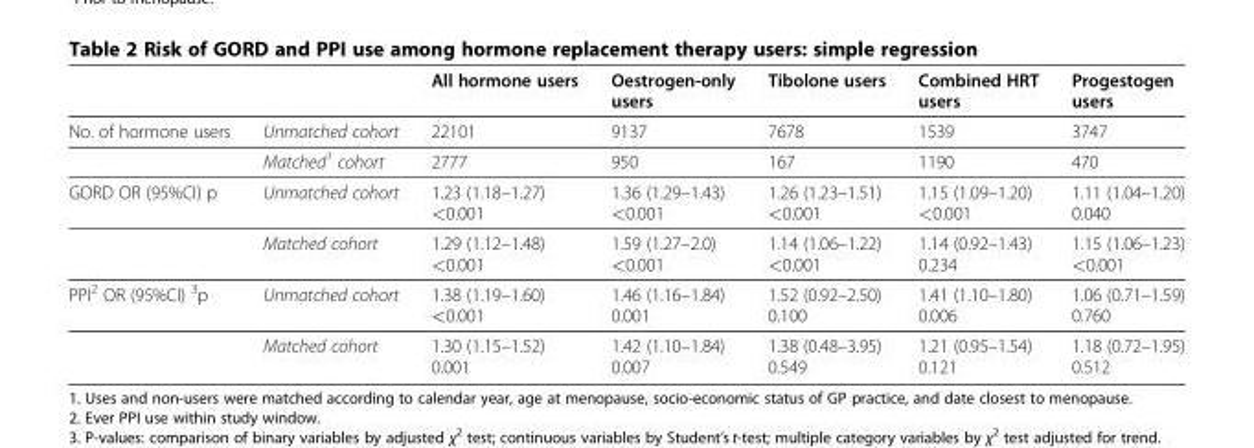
<table><thead><tr><td></td><td></td><td>All hormone users</td><td>Oestrogen-only users</td><td>Tibolone users</td><td>Combined HRT users</td><td>Progestogen users</td></tr></thead><tbody><tr><td rowspan="2">No. of hormone users</td><td>Unmatched cohort</td><td>22101</td><td>9137</td><td>7678</td><td>1539</td><td>3747</td></tr><tr><td>Matched<sup>1</sup> cohort</td><td>2777</td><td>950</td><td>167</td><td>1190</td><td>470</td></tr><tr><td rowspan="2">GORD OR (95%CI) p</td><td>Unmatched cohort</td><td>1.23 (1.18–1.27) &lt;0.001</td><td>1.36 (1.29–1.43) &lt;0.001</td><td>1.26 (1.23–1.51) &lt;0.001</td><td>1.15 (1.09–1.20) &lt;0.001</td><td>1.11 (1.04–1.20) 0.040</td></tr><tr><td>Matched cohort</td><td>1.29 (1.12–1.48) &lt;0.001</td><td>1.59 (1.27–2.0) &lt;0.001</td><td>1.14 (1.06–1.22) &lt;0.001</td><td>1.14 (0.92–1.43) 0.234</td><td>1.15 (1.06–1.23) &lt;0.001</td></tr><tr><td rowspan="2">PPI<sup>2</sup> OR (95%CI) <sup>3</sup>p</td><td>Unmatched cohort</td><td>1.38 (1.19–1.60) &lt;0.001</td><td>1.46 (1.16–1.84) 0.001</td><td>1.52 (0.92–2.50) 0.100</td><td>1.41 (1.10–1.80) 0.006</td><td>1.06 (0.71–1.59) 0.760</td></tr><tr><td>Matched cohort</td><td>1.30 (1.15–1.52) 0.001</td><td>1.42 (1.10–1.84) 0.007</td><td>1.38 (0.48–3.95) 0.549</td><td>1.21 (0.95–1.54) 0.121</td><td>1.18 (0.72–1.95) 0.512</td></tr></tbody></table>